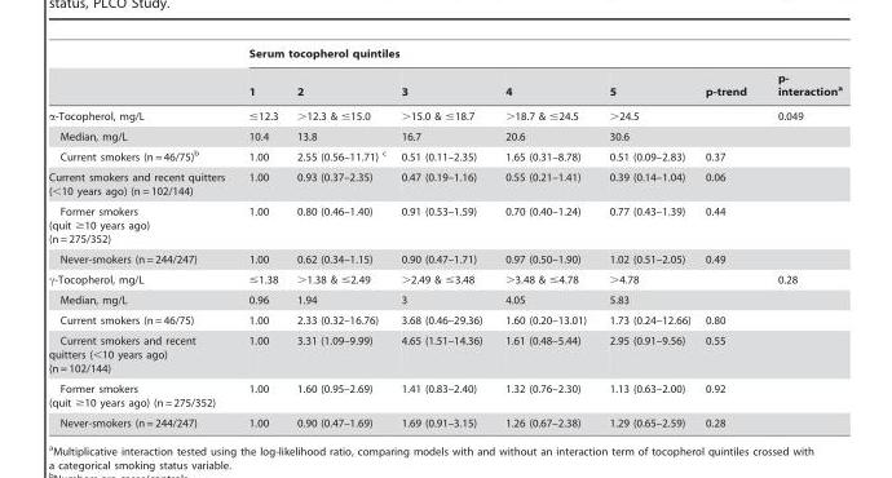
<table><thead><tr><td rowspan="2"></td><td colspan="7">Serum tocopherol quintiles</td></tr><tr><td>1</td><td>2</td><td>3</td><td>4</td><td>5</td><td>p-trend</td><td>p- interaction<sup>a</sup></td></tr></thead><tbody><tr><td>α-Tocopherol, mg/L</td><td>≤12.3</td><td>&gt;12.3 &amp; ≤15.0</td><td>&gt;15.0 &amp; ≤18.7</td><td>&gt;18.7 &amp; ≤24.5</td><td>&gt;24.5</td><td></td><td>0.049</td></tr><tr><td>Median, mg/L</td><td>10.4</td><td>13.8</td><td>16.7</td><td>20.6</td><td>30.6</td><td></td><td></td></tr><tr><td>Current smokers (n = 46/75)<sup>b</sup></td><td>1.00</td><td>2.55 (0.56–11.71) c</td><td>0.51 (0.11–2.35)</td><td>1.65 (0.31–8.78)</td><td>0.51 (0.09–2.83)</td><td>0.37</td><td></td></tr><tr><td>Current smokers and recent quitters (&lt;10 years ago) (n = 102/144)</td><td>1.00</td><td>0.93 (0.37–2.35)</td><td>0.47 (0.19–1.16)</td><td>0.55 (0.21–1.41)</td><td>0.39 (0.14–1.04)</td><td>0.06</td><td></td></tr><tr><td>Former smokers (quit ≥10 years ago) (n = 275/352)</td><td>1.00</td><td>0.80 (0.46–1.40)</td><td>0.91 (0.53–1.59)</td><td>0.70 (0.40–1.24)</td><td>0.77 (0.43–1.39)</td><td>0.44</td><td></td></tr><tr><td>Never-smokers (n = 244/247)</td><td>1.00</td><td>0.62 (0.34–1.15)</td><td>0.90 (0.47–1.71)</td><td>0.97 (0.50–1.90)</td><td>1.02 (0.51–2.05)</td><td>0.49</td><td></td></tr><tr><td>γ-Tocopherol, mg/L</td><td>≤1.38</td><td>&gt;1.38 &amp; ≤2.49</td><td>&gt;2.49 &amp; ≤3.48</td><td>&gt;3.48 &amp; ≤4.78</td><td>&gt;4.78</td><td></td><td>0.28</td></tr><tr><td>Median, mg/L</td><td>0.96</td><td>1.94</td><td>3</td><td>4.05</td><td>5.83</td><td></td><td></td></tr><tr><td>Current smokers (n = 46/75)</td><td>1.00</td><td>2.33 (0.32–16.76)</td><td>3.68 (0.46–29.36)</td><td>1.60 (0.20–13.01)</td><td>1.73 (0.24–12.66)</td><td>0.80</td><td></td></tr><tr><td>Current smokers and recent quitters (&lt;10 years ago) (n = 102/144)</td><td>1.00</td><td>3.31 (1.09–9.99)</td><td>4.65 (1.51–14.36)</td><td>1.61 (0.48–5.44)</td><td>2.95 (0.91–9.56)</td><td>0.55</td><td></td></tr><tr><td>Former smokers (quit ≥10 years ago) (n = 275/352)</td><td>1.00</td><td>1.60 (0.95–2.69)</td><td>1.41 (0.83–2.40)</td><td>1.32 (0.76–2.30)</td><td>1.13 (0.63–2.00)</td><td>0.92</td><td></td></tr><tr><td>Never-smokers (n = 244/247)</td><td>1.00</td><td>0.90 (0.47–1.69)</td><td>1.69 (0.91–3.15)</td><td>1.26 (0.67–2.38)</td><td>1.29 (0.65–2.59)</td><td>0.28</td><td></td></tr></tbody></table>